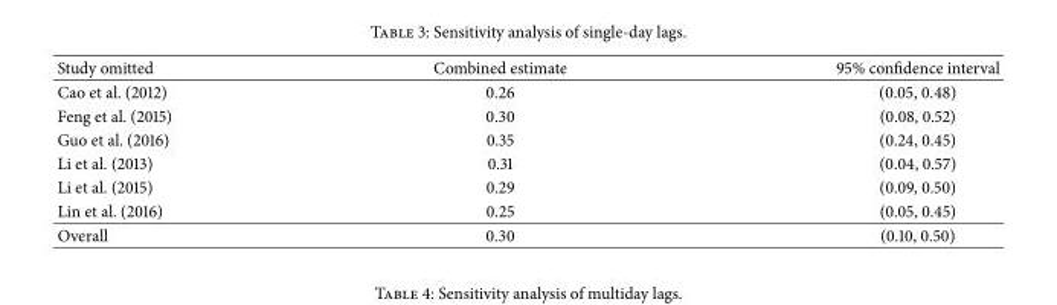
<table><thead><tr><td>Study omitted</td><td>Combined estimate</td><td>95% confidence interval</td></tr></thead><tbody><tr><td>Cao et al. (2012)</td><td>0.26</td><td>(0.05, 0.48)</td></tr><tr><td>Feng et al. (2015)</td><td>0.30</td><td>(0.08, 0.52)</td></tr><tr><td>Guo et al. (2016)</td><td>0.35</td><td>(0.24, 0.45)</td></tr><tr><td>Li et al. (2013)</td><td>0.31</td><td>(0.04, 0.57)</td></tr><tr><td>Li et al. (2015)</td><td>0.29</td><td>(0.09, 0.50)</td></tr><tr><td>Lin et al. (2016)</td><td>0.25</td><td>(0.05, 0.45)</td></tr><tr><td>Overall</td><td>0.30</td><td>(0.10, 0.50)</td></tr></tbody></table>